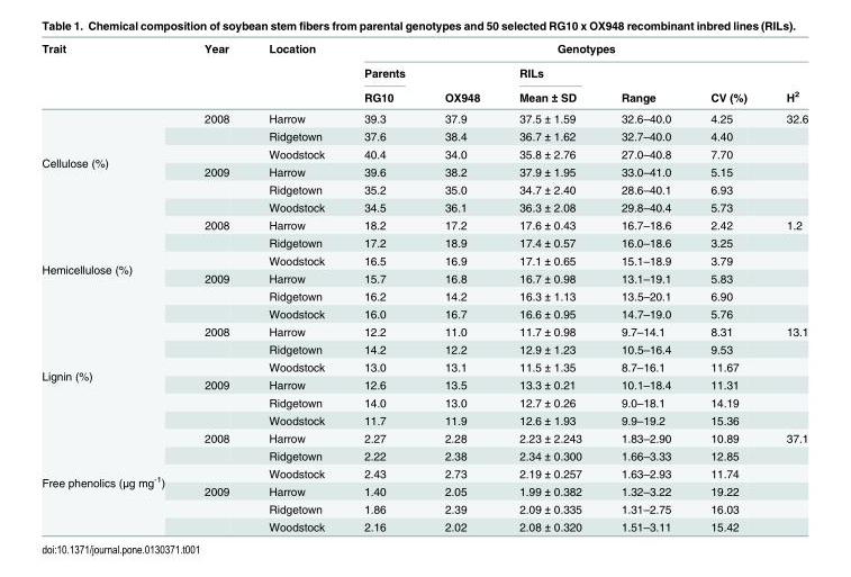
<table><thead><tr><td rowspan="3">Trait</td><td rowspan="3">Year</td><td rowspan="3">Location</td><td colspan="6">Genotypes</td></tr><tr><td rowspan="2">Parents RG10</td><td rowspan="2">OX948</td><td rowspan="2">RILs Mean ± SD</td><td rowspan="2">Range</td><td rowspan="2">CV (%)</td><td rowspan="2">H<sup>2</sup></td></tr><tr></tr></thead><tbody><tr><td rowspan="6">Cellulose (%)</td><td>2008</td><td>Harrow</td><td>39.3</td><td>37.9</td><td>37.5 ± 1.59</td><td>32.6–40.0</td><td>4.25</td><td>32.6</td></tr><tr><td></td><td>Ridgetown</td><td>37.6</td><td>38.4</td><td>36.7 ± 1.62</td><td>32.7–40.0</td><td>4.40</td><td></td></tr><tr><td></td><td>Woodstock</td><td>40.4</td><td>34.0</td><td>35.8 ± 2.76</td><td>27.0–40.8</td><td>7.70</td><td></td></tr><tr><td>2009</td><td>Harrow</td><td>39.6</td><td>38.2</td><td>37.9 ± 1.95</td><td>33.0–41.0</td><td>5.15</td><td></td></tr><tr><td></td><td>Ridgetown</td><td>35.2</td><td>35.0</td><td>34.7 ± 2.40</td><td>28.6–40.1</td><td>6.93</td><td></td></tr><tr><td></td><td>Woodstock</td><td>34.5</td><td>36.1</td><td>36.3 ± 2.08</td><td>29.8–40.4</td><td>5.73</td><td></td></tr><tr><td rowspan="6">Hemicellulose (%)</td><td>2008</td><td>Harrow</td><td>18.2</td><td>17.2</td><td>17.6 ± 0.43</td><td>16.7–18.6</td><td>2.42</td><td>1.2</td></tr><tr><td></td><td>Ridgetown</td><td>17.2</td><td>18.9</td><td>17.4 ± 0.57</td><td>16.0–18.6</td><td>3.25</td><td></td></tr><tr><td></td><td>Woodstock</td><td>16.5</td><td>16.9</td><td>17.1 ± 0.65</td><td>15.1–18.9</td><td>3.79</td><td></td></tr><tr><td>2009</td><td>Harrow</td><td>15.7</td><td>16.8</td><td>16.7 ± 0.98</td><td>13.1–19.1</td><td>5.83</td><td></td></tr><tr><td></td><td>Ridgetown</td><td>16.2</td><td>14.2</td><td>16.3 ± 1.13</td><td>13.5–20.1</td><td>6.90</td><td></td></tr><tr><td></td><td>Woodstock</td><td>16.0</td><td>16.7</td><td>16.6 ± 0.95</td><td>14.7–19.0</td><td>5.76</td><td></td></tr><tr><td rowspan="6">Lignin (%)</td><td>2008</td><td>Harrow</td><td>12.2</td><td>11.0</td><td>11.7 ± 0.98</td><td>9.7–14.1</td><td>8.31</td><td>13.1</td></tr><tr><td></td><td>Ridgetown</td><td>14.2</td><td>12.2</td><td>12.9 ± 1.23</td><td>10.5–16.4</td><td>9.53</td><td></td></tr><tr><td></td><td>Woodstock</td><td>13.0</td><td>13.1</td><td>11.5 ± 1.35</td><td>8.7–16.1</td><td>11.67</td><td></td></tr><tr><td>2009</td><td>Harrow</td><td>12.6</td><td>13.5</td><td>13.3 ± 0.21</td><td>10.1–18.4</td><td>11.31</td><td></td></tr><tr><td></td><td>Ridgetown</td><td>14.0</td><td>13.0</td><td>12.7 ± 0.26</td><td>9.0–18.1</td><td>14.19</td><td></td></tr><tr><td></td><td>Woodstock</td><td>11.7</td><td>11.9</td><td>12.6 ± 1.93</td><td>9.9–19.2</td><td>15.36</td><td></td></tr><tr><td rowspan="6">Free phenolics (μg mg<sup>-1</sup>)</td><td>2008</td><td>Harrow</td><td>2.27</td><td>2.28</td><td>2.23 ± 2.243</td><td>1.83–2.90</td><td>10.89</td><td>37.1</td></tr><tr><td></td><td>Ridgetown</td><td>2.22</td><td>2.38</td><td>2.34 ± 0.300</td><td>1.66–3.33</td><td>12.85</td><td></td></tr><tr><td></td><td>Woodstock</td><td>2.43</td><td>2.73</td><td>2.19 ± 0.257</td><td>1.63–2.93</td><td>11.74</td><td></td></tr><tr><td>2009</td><td>Harrow</td><td>1.40</td><td>2.05</td><td>1.99 ± 0.382</td><td>1.32–3.22</td><td>19.22</td><td></td></tr><tr><td></td><td>Ridgetown</td><td>1.86</td><td>2.39</td><td>2.09 ± 0.335</td><td>1.31–2.75</td><td>16.03</td><td></td></tr><tr><td></td><td>Woodstock</td><td>2.16</td><td>2.02</td><td>2.08 ± 0.320</td><td>1.51–3.11</td><td>15.42</td><td></td></tr></tbody></table>